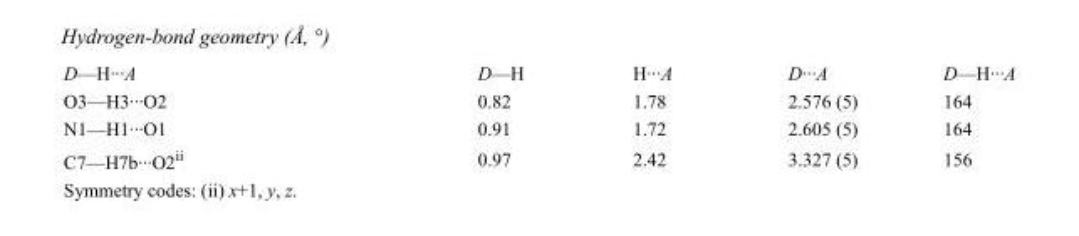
<table><tbody><tr><td>D—H···A</td><td>D—H</td><td>H···A</td><td>D···A</td><td>D—H···A</td></tr><tr><td>O3—H3···O2</td><td>0.82</td><td>1.78</td><td>2.576 (5)</td><td>164</td></tr><tr><td>N1—H1···O1</td><td>0.91</td><td>1.72</td><td>2.605 (5)</td><td>164</td></tr><tr><td>C7—H7b···O2<sup>ii</sup></td><td>0.97</td><td>2.42</td><td>3.327 (5)</td><td>156</td></tr></tbody></table>